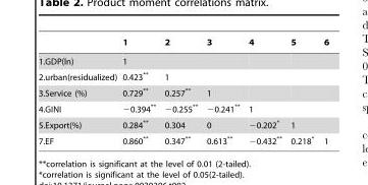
<table><thead><tr><td></td><td>1</td><td>2</td><td>3</td><td>4</td><td>5</td><td>6</td></tr></thead><tbody><tr><td>1.GDP(ln)</td><td>1</td><td></td><td></td><td></td><td></td><td></td></tr><tr><td>2.urban(residualized)</td><td>0.423**</td><td>1</td><td></td><td></td><td></td><td></td></tr><tr><td>3.Service (%)</td><td>0.729**</td><td>0.257**</td><td>1</td><td></td><td></td><td></td></tr><tr><td>4.GINI</td><td>−0.394**</td><td>−0.255**</td><td>−0.241**</td><td>1</td><td></td><td></td></tr><tr><td>5.Export(%)</td><td>0.284**</td><td>0.304</td><td>0</td><td>−0.202*</td><td>1</td><td></td></tr><tr><td>7.EF</td><td>0.860**</td><td>0.347**</td><td>0.613**</td><td>−0.432**</td><td>0.218*</td><td>1</td></tr></tbody></table>